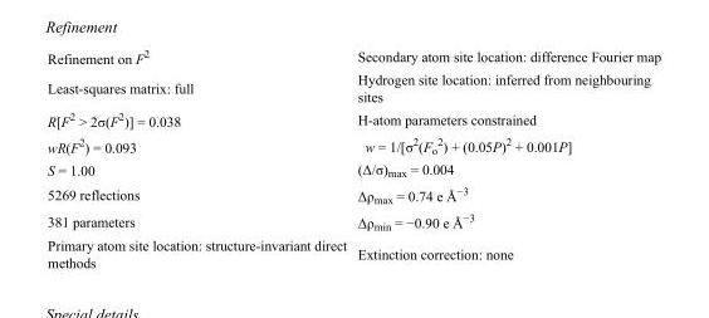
<table><tbody><tr><td>Refinement on F<sup>2</sup></td><td>Secondary atom site location: difference Fourier map</td></tr><tr><td>Least-squares matrix: full</td><td>Hydrogen site location: inferred from neighbouring sites</td></tr><tr><td>R[F<sup>2</sup> &gt; 2σ(F<sup>2</sup>)] = 0.038</td><td>H-atom parameters constrained</td></tr><tr><td>wR(F<sup>2</sup>) = 0.093</td><td>w = 1/[σ<sup>2</sup>(F<sub>o</sub> <sup>2</sup>) + (0.05P)<sup>2</sup> + 0.001P]</td></tr><tr><td>S = 1.00</td><td>(Δ/σ)<sub>max</sub> = 0.004</td></tr><tr><td>5269 reflections</td><td>Δρ<sub>max</sub> = 0.74 e Å<sup>−3</sup></td></tr><tr><td>381 parameters</td><td>Δρ<sub>min</sub> = −0.90 e Å<sup>−3</sup></td></tr><tr><td>Primary atom site location: structure-invariant direct methods</td><td>Extinction correction: none</td></tr></tbody></table>